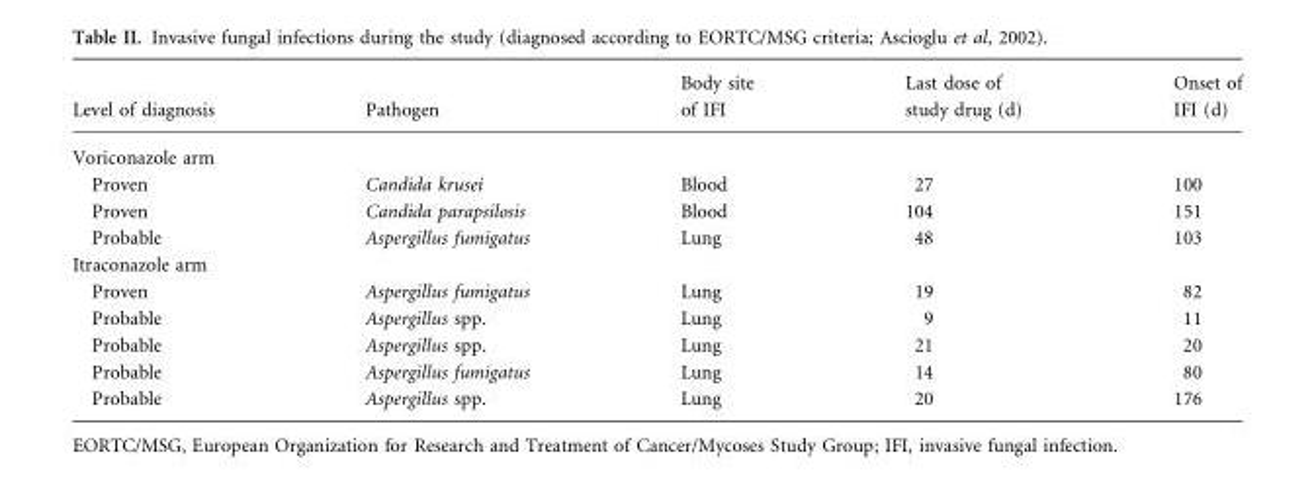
<table><thead><tr><td>Level of diagnosis</td><td>Pathogen</td><td>Body site of IFI</td><td>Last dose of study drug (d)</td><td>Onset of IFI (d)</td></tr></thead><tbody><tr><td colspan="5">Voriconazole arm</td></tr><tr><td>Proven</td><td>Candida krusei</td><td>Blood</td><td>27</td><td>100</td></tr><tr><td>Proven</td><td>Candida parapsilosis</td><td>Blood</td><td>104</td><td>151</td></tr><tr><td>Probable</td><td>Aspergillus fumigatus</td><td>Lung</td><td>48</td><td>103</td></tr><tr><td colspan="5">Itraconazole arm</td></tr><tr><td>Proven</td><td>Aspergillus fumigatus</td><td>Lung</td><td>19</td><td>82</td></tr><tr><td>Probable</td><td>Aspergillus spp.</td><td>Lung</td><td>9</td><td>11</td></tr><tr><td>Probable</td><td>Aspergillus spp.</td><td>Lung</td><td>21</td><td>20</td></tr><tr><td>Probable</td><td>Aspergillus fumigatus</td><td>Lung</td><td>14</td><td>80</td></tr><tr><td>Probable</td><td>Aspergillus spp.</td><td>Lung</td><td>20</td><td>176</td></tr></tbody></table>